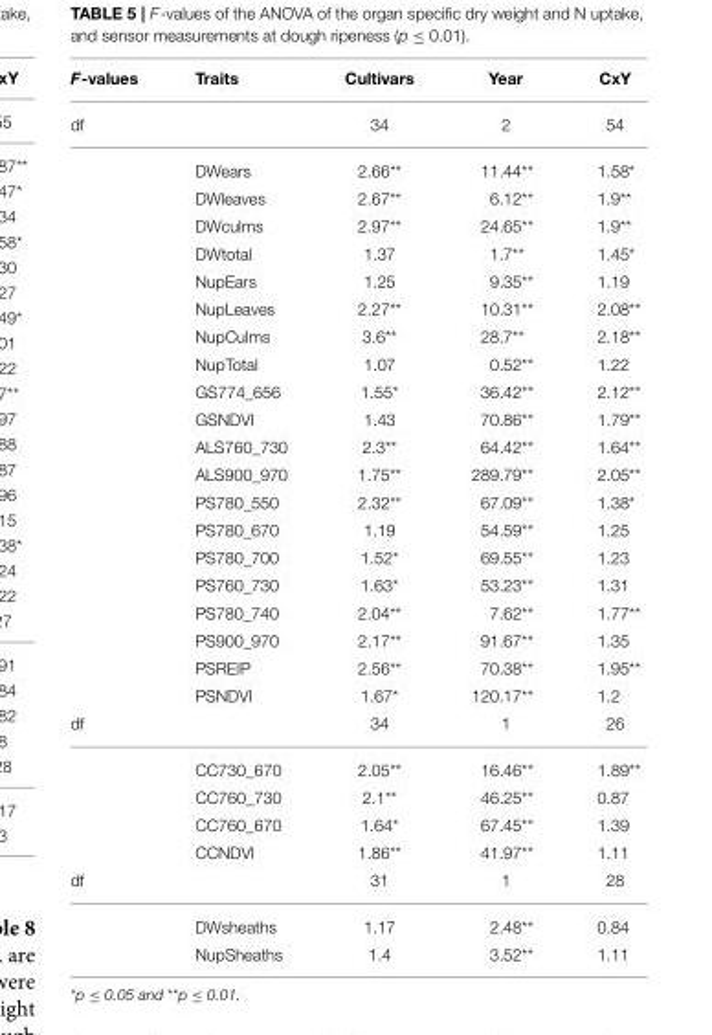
<table><thead><tr><td>F-values</td><td>Traits</td><td>Cultivars</td><td>Year</td><td>CxY</td></tr></thead><tbody><tr><td rowspan="21">df</td><td></td><td>34</td><td>2</td><td>54</td></tr><tr><td>DWears</td><td>2.66**</td><td>11.44**</td><td>1.58*</td></tr><tr><td>DWleaves</td><td>2.67**</td><td>6.12**</td><td>1.9**</td></tr><tr><td>DWculms</td><td>2.97**</td><td>24.65**</td><td>1.9**</td></tr><tr><td>DWtotal</td><td>1.37</td><td>1.7**</td><td>1.45*</td></tr><tr><td>NupEars</td><td>1.25</td><td>9.35**</td><td>1.19</td></tr><tr><td>NupLeaves</td><td>2.27**</td><td>10.31**</td><td>2.08**</td></tr><tr><td>NupCulms</td><td>3.6**</td><td>28.7**</td><td>2.18**</td></tr><tr><td>NupTotal</td><td>1.07</td><td>0.52**</td><td>1.22</td></tr><tr><td>GS774_656</td><td>1.55*</td><td>36.42**</td><td>2.12**</td></tr><tr><td>GSNDVI</td><td>1.43</td><td>70.86**</td><td>1.79**</td></tr><tr><td>ALS760_730</td><td>2.3**</td><td>64.42**</td><td>1.64**</td></tr><tr><td>ALS900_970</td><td>1.75**</td><td>289.79**</td><td>2.05**</td></tr><tr><td>PS780_550</td><td>2.32**</td><td>67.09**</td><td>1.38*</td></tr><tr><td>PS780_670</td><td>1.19</td><td>54.59**</td><td>1.25</td></tr><tr><td>PS780_700</td><td>1.52*</td><td>69.55**</td><td>1.23</td></tr><tr><td>PS760_730</td><td>1.63*</td><td>53.23**</td><td>1.31</td></tr><tr><td>PS780_740</td><td>2.04**</td><td>7.62**</td><td>1.77**</td></tr><tr><td>PS900_970</td><td>2.17**</td><td>91.67**</td><td>1.35</td></tr><tr><td>PSREIP</td><td>2.56**</td><td>70.38**</td><td>1.95**</td></tr><tr><td>PSNDVI</td><td>1.67*</td><td>120.17**</td><td>1.2</td></tr><tr><td rowspan="5">df</td><td></td><td>34</td><td>1</td><td>26</td></tr><tr><td>CC730_670</td><td>2.05**</td><td>16.46**</td><td>1.89**</td></tr><tr><td>CC760_730</td><td>2.1**</td><td>46.25**</td><td>0.87</td></tr><tr><td>CC760_670</td><td>1.64*</td><td>67.45**</td><td>1.39</td></tr><tr><td>CCNDVI</td><td>1.86**</td><td>41.97**</td><td>1.11</td></tr><tr><td rowspan="3">df</td><td></td><td>31</td><td>1</td><td>28</td></tr><tr><td>DWsheaths</td><td>1.17</td><td>2.48**</td><td>0.84</td></tr><tr><td>NupSheaths</td><td>1.4</td><td>3.52**</td><td>1.11</td></tr></tbody></table>